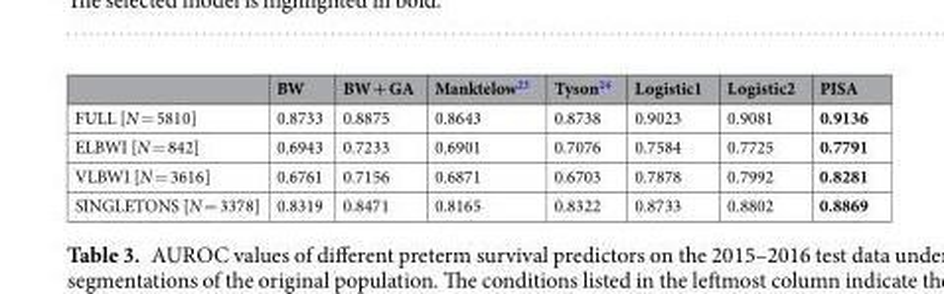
<table><thead><tr><td></td><td>BW</td><td>BW + GA</td><td>Manktelow<sup>23</sup></td><td>Tyson<sup>24</sup></td><td>Logistic1</td><td>Logistic2</td><td>PISA</td></tr></thead><tbody><tr><td>FULL [N = 5810]</td><td>0.8733</td><td>0.8875</td><td>0.8643</td><td>0.8738</td><td>0.9023</td><td>0.9081</td><td>0.9136</td></tr><tr><td>ELBWI [N = 842]</td><td>0.6943</td><td>0.7233</td><td>0.6901</td><td>0.7076</td><td>0.7584</td><td>0.7725</td><td>0.7791</td></tr><tr><td>VLBWI [N = 3616]</td><td>0.6761</td><td>0.7156</td><td>0.6871</td><td>0.6703</td><td>0.7878</td><td>0.7992</td><td>0.8281</td></tr><tr><td>SINGLETONS [N = 3378]</td><td>0.8319</td><td>0.8471</td><td>0.8165</td><td>0.8322</td><td>0.8733</td><td>0.8802</td><td>0.8869</td></tr></tbody></table>